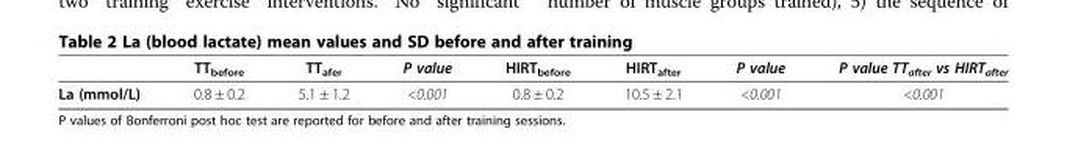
<table><thead><tr><td></td><td>TT<sub>before</sub></td><td>TT<sub>afer</sub></td><td>P value</td><td>HIRT<sub>before</sub></td><td>HIRT<sub>after</sub></td><td>P value</td><td>P value TT<sub>after</sub> vs HIRT<sub>after</sub></td></tr></thead><tbody><tr><td>La (mmol/L)</td><td>0.8 ± 0.2</td><td>5.1 ± 1.2</td><td>&lt;0.001</td><td>0.8 ± 0.2</td><td>10.5 ± 2.1</td><td>&lt;0.001</td><td>&lt;0.001</td></tr></tbody></table>